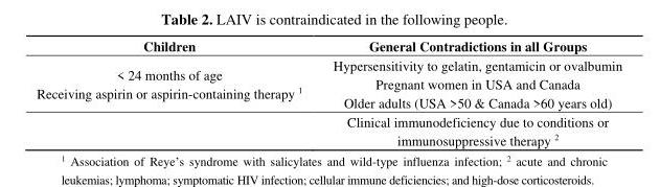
<table><thead><tr><td>Children</td><td>General Contradictions in all Groups</td></tr></thead><tbody><tr><td rowspan="2">&lt; 24 months of age Receiving aspirin or aspirin-containing therapy <sup>1</sup></td><td>Hypersensitivity to gelatin, gentamicin or ovalbumin Pregnant women in USA and Canada Older adults (USA &gt;50 &amp; Canada &gt;60 years old)</td></tr><tr><td>Clinical immunodeficiency due to conditions or immunosuppressive therapy <sup>2</sup></td></tr></tbody></table>